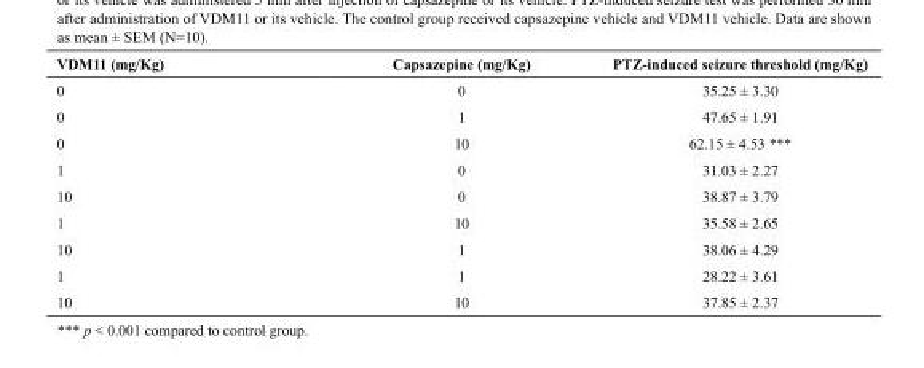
<table><thead><tr><td>VDM11 (mg/Kg)</td><td>Capsazepine (mg/Kg)</td><td>PTZ-induced seizure threshold (mg/Kg)</td></tr></thead><tbody><tr><td>0</td><td>0</td><td>35.25 ± 3.30</td></tr><tr><td>0</td><td>1</td><td>47.65 ± 1.91</td></tr><tr><td>0</td><td>10</td><td>62.15 ± 4.53 ***</td></tr><tr><td>1</td><td>0</td><td>31.03 ± 2.27</td></tr><tr><td>10</td><td>0</td><td>38.87 ± 3.79</td></tr><tr><td>1</td><td>10</td><td>35.58 ± 2.65</td></tr><tr><td>10</td><td>1</td><td>38.06 ± 4.29</td></tr><tr><td>1</td><td>1</td><td>28.22 ± 3.61</td></tr><tr><td>10</td><td>10</td><td>37.85 ± 2.37</td></tr></tbody></table>